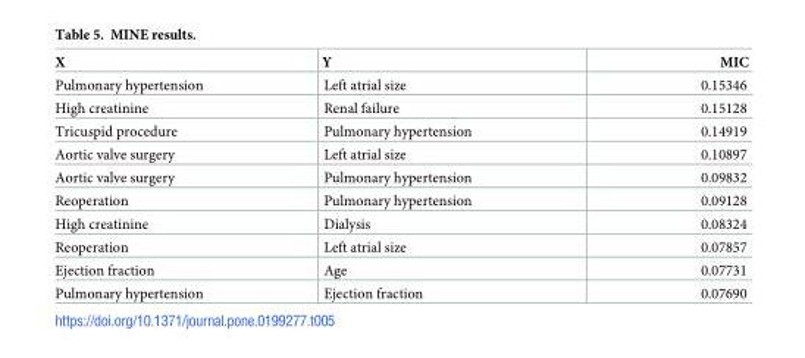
<table><thead><tr><td>X</td><td>Y</td><td>MIC</td></tr></thead><tbody><tr><td>Pulmonary hypertension</td><td>Left atrial size</td><td>0.15346</td></tr><tr><td>High creatinine</td><td>Renal failure</td><td>0.15128</td></tr><tr><td>Tricuspid procedure</td><td>Pulmonary hypertension</td><td>0.14919</td></tr><tr><td>Aortic valve surgery</td><td>Left atrial size</td><td>0.10897</td></tr><tr><td>Aortic valve surgery</td><td>Pulmonary hypertension</td><td>0.09832</td></tr><tr><td>Reoperation</td><td>Pulmonary hypertension</td><td>0.09128</td></tr><tr><td>High creatinine</td><td>Dialysis</td><td>0.08324</td></tr><tr><td>Reoperation</td><td>Left atrial size</td><td>0.07857</td></tr><tr><td>Ejection fraction</td><td>Age</td><td>0.07731</td></tr><tr><td>Pulmonary hypertension</td><td>Ejection fraction</td><td>0.07690</td></tr></tbody></table>